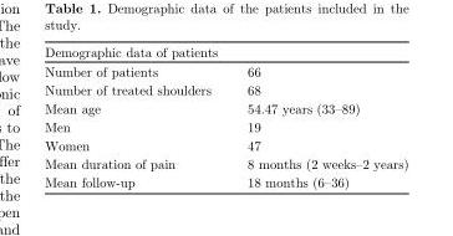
<table><thead><tr><td>Demographic data of patients</td><td></td></tr></thead><tbody><tr><td>Number of patients</td><td>66</td></tr><tr><td>Number of treated shoulders</td><td>68</td></tr><tr><td>Mean age</td><td>54.47 years (33–89)</td></tr><tr><td>Men</td><td>19</td></tr><tr><td>Women</td><td>47</td></tr><tr><td>Mean duration of pain</td><td>8 months (2 weeks–2 years)</td></tr><tr><td>Mean follow-up</td><td>18 months (6–36)</td></tr></tbody></table>